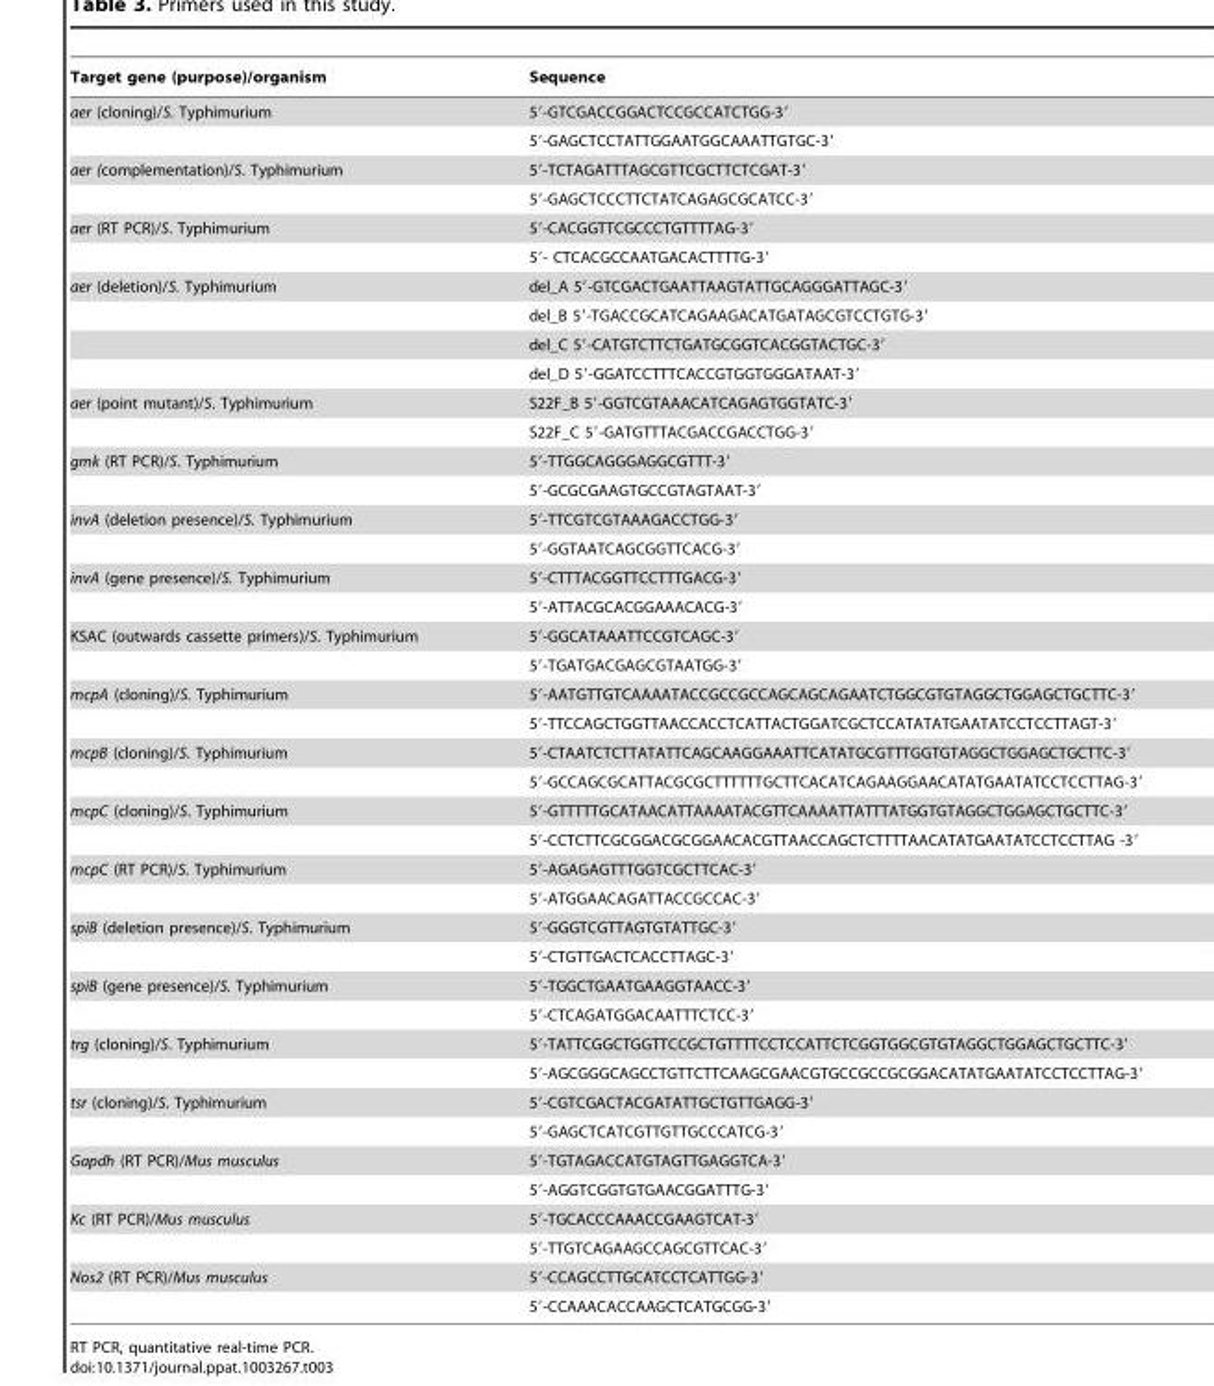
<table><thead><tr><td>Target gene (purpose)/organism</td><td>Sequence</td></tr></thead><tbody><tr><td rowspan="2">aer (cloning)/S. Typhimurium</td><td>5′-GTCGACCGGACTCCGCCATCTGG-3′</td></tr><tr><td>5′-GAGCTCCTATTGGAATGGCAAATTGTGC-3′</td></tr><tr><td rowspan="2">aer (complementation)/S. Typhimurium</td><td>5′-TCTAGATTTAGCGTTCGCTTCTCGAT-3′</td></tr><tr><td>5′-GAGCTCCCTTCTATCAGAGCGCATCC-3′</td></tr><tr><td rowspan="2">aer (RT PCR)/S. Typhimurium</td><td>5′-CACGGTTCGCCCTGTTTTAG-3′</td></tr><tr><td>5′- CTCACGCCAATGACACTTTTG-3′</td></tr><tr><td rowspan="4">aer (deletion)/S. Typhimurium</td><td>del_A 5′-GTCGACTGAATTAAGTATTGCAGGGATTAGC-3′</td></tr><tr><td>del_B 5′-TGACCGCATCAGAAGACATGATAGCGTCCTGTG-3′</td></tr><tr><td>del_C 5′-CATGTCTTCTGATGCGGTCACGGTACTGC-3′</td></tr><tr><td>del_D 5′-GGATCCTTTCACCGTGGTGGGATAAT-3′</td></tr><tr><td rowspan="2">aer (point mutant)/S. Typhimurium</td><td>S22F_B 5′-GGTCGTAAACATCAGAGTGGTATC-3′</td></tr><tr><td>S22F_C 5′-GATGTTTACGACCGACCTGG-3′</td></tr><tr><td rowspan="2">gmk (RT PCR)/S. Typhimurium</td><td>5′-TTGGCAGGGAGGCGTTT-3′</td></tr><tr><td>5′-GCGCGAAGTGCCGTAGTAAT-3′</td></tr><tr><td rowspan="2">invA (deletion presence)/S. Typhimurium</td><td>5′-TTCGTCGTAAAGACCTGG-3′</td></tr><tr><td>5′-GGTAATCAGCGGTTCACG-3′</td></tr><tr><td rowspan="2">invA (gene presence)/S. Typhimurium</td><td>5′-CTTTACGGTTCCTTTGACG-3′</td></tr><tr><td>5′-ATTACGCACGGAAACACG-3′</td></tr><tr><td rowspan="2">KSAC (outwards cassette primers)/S. Typhimurium</td><td>5′-GGCATAAATTCCGTCAGC-3′</td></tr><tr><td>5′-TGATGACGAGCGTAATGG-3′</td></tr><tr><td rowspan="2">mcpA (cloning)/S. Typhimurium</td><td>5′-AATGTTGTCAAAATACCGCCGCCAGCAGCAGAATCTGGCGTGTAGGCTGGAGCTGCTTC-3′</td></tr><tr><td>5′-TTCCAGCTGGTTAACCACCTCATTACTGGATCGCTCCATATATGAATATCCTCCTTAGT-3′</td></tr><tr><td rowspan="2">mcpB (cloning)/S. Typhimurium</td><td>5′-CTAATCTCTTATATTCAGCAAGGAAATTCATATGCGTTTGGTGTAGGCTGGAGCTGCTTC-3′</td></tr><tr><td>5′-GCCAGCGCATTACGCGCTTTTTTGCTTCACATCAGAAGGAACATATGAATATCCTCCTTAG-3′</td></tr><tr><td rowspan="2">mcpC (cloning)/S. Typhimurium</td><td>5′-GTTTTTGCATAACATTAAAATACGTTCAAAATTATTTATGGTGTAGGCTGGAGCTGCTTC-3′</td></tr><tr><td>5′-CCTCTTCGCGGACGCGGAACACGTTAACCAGCTCTTTTAACATATGAATATCCTCCTTAG -3′</td></tr><tr><td rowspan="2">mcpC (RT PCR)/S. Typhimurium</td><td>5′-AGAGAGTTTGGTCGCTTCAC-3′</td></tr><tr><td>5′-ATGGAACAGATTACCGCCAC-3′</td></tr><tr><td rowspan="2">spiB (deletion presence)/S. Typhimurium</td><td>5′-GGGTCGTTAGTGTATTGC-3′</td></tr><tr><td>5′-CTGTTGACTCACCTTAGC-3′</td></tr><tr><td rowspan="2">spiB (gene presence)/S. Typhimurium</td><td>5′-TGGCTGAATGAAGGTAACC-3′</td></tr><tr><td>5′-CTCAGATGGACAATTTCTCC-3′</td></tr><tr><td rowspan="2">trg (cloning)/S. Typhimurium</td><td>5′-TATTCGGCTGGTTCCGCTGTTTTCCTCCATTCTCGGTGGCGTGTAGGCTGGAGCTGCTTC-3′</td></tr><tr><td>5′-AGCGGGCAGCCTGTTCTTCAAGCGAACGTGCCGCCGCGGACATATGAATATCCTCCTTAG-3′</td></tr><tr><td rowspan="2">tsr (cloning)/S. Typhimurium</td><td>5′-CGTCGACTACGATATTGCTGTTGAGG-3′</td></tr><tr><td>5′-GAGCTCATCGTTGTTGCCCATCG-3′</td></tr><tr><td rowspan="2">Gapdh (RT PCR)/Mus musculus</td><td>5′-TGTAGACCATGTAGTTGAGGTCA-3′</td></tr><tr><td>5′-AGGTCGGTGTGAACGGATTTG-3′</td></tr><tr><td rowspan="2">Kc (RT PCR)/Mus musculus</td><td>5′-TGCACCCAAACCGAAGTCAT-3′</td></tr><tr><td>5′-TTGTCAGAAGCCAGCGTTCAC-3′</td></tr><tr><td rowspan="2">Nos2 (RT PCR)/Mus musculus</td><td>5′-CCAGCCTTGCATCCTCATTGG-3′</td></tr><tr><td>5′-CCAAACACCAAGCTCATGCGG-3′</td></tr></tbody></table>